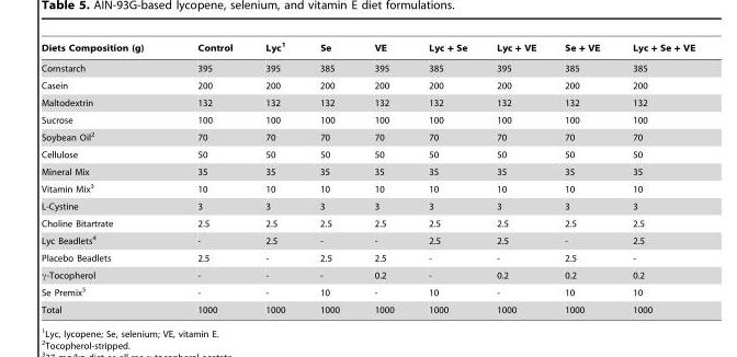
<table><thead><tr><td>Diets Composition (g)</td><td>Control</td><td>Lyc<sup>1</sup></td><td>Se</td><td>VE</td><td>Lyc + Se</td><td>Lyc + VE</td><td>Se + VE</td><td>Lyc + Se + VE</td></tr></thead><tbody><tr><td>Cornstarch</td><td>395</td><td>395</td><td>385</td><td>395</td><td>385</td><td>395</td><td>385</td><td>385</td></tr><tr><td>Casein</td><td>200</td><td>200</td><td>200</td><td>200</td><td>200</td><td>200</td><td>200</td><td>200</td></tr><tr><td>Maltodextrin</td><td>132</td><td>132</td><td>132</td><td>132</td><td>132</td><td>132</td><td>132</td><td>132</td></tr><tr><td>Sucrose</td><td>100</td><td>100</td><td>100</td><td>100</td><td>100</td><td>100</td><td>100</td><td>100</td></tr><tr><td>Soybean Oil<sup>2</sup></td><td>70</td><td>70</td><td>70</td><td>70</td><td>70</td><td>70</td><td>70</td><td>70</td></tr><tr><td>Cellulose</td><td>50</td><td>50</td><td>50</td><td>50</td><td>50</td><td>50</td><td>50</td><td>50</td></tr><tr><td>Mineral Mix</td><td>35</td><td>35</td><td>35</td><td>35</td><td>35</td><td>35</td><td>35</td><td>35</td></tr><tr><td>Vitamin Mix<sup>3</sup></td><td>10</td><td>10</td><td>10</td><td>10</td><td>10</td><td>10</td><td>10</td><td>10</td></tr><tr><td>L-Cystine</td><td>3</td><td>3</td><td>3</td><td>3</td><td>3</td><td>3</td><td>3</td><td>3</td></tr><tr><td>Choline Bitartrate</td><td>2.5</td><td>2.5</td><td>2.5</td><td>2.5</td><td>2.5</td><td>2.5</td><td>2.5</td><td>2.5</td></tr><tr><td>Lyc Beadlets<sup>4</sup></td><td>-</td><td>2.5</td><td>-</td><td>-</td><td>2.5</td><td>2.5</td><td>-</td><td>2.5</td></tr><tr><td>Placebo Beadlets</td><td>2.5</td><td>-</td><td>2.5</td><td>2.5</td><td>-</td><td>-</td><td>2.5</td><td>-</td></tr><tr><td>γ-Tocopherol</td><td>-</td><td>-</td><td>-</td><td>0.2</td><td>-</td><td>0.2</td><td>0.2</td><td>0.2</td></tr><tr><td>Se Premix<sup>5</sup></td><td>-</td><td>-</td><td>10</td><td>-</td><td>10</td><td>-</td><td>10</td><td>10</td></tr><tr><td>Total</td><td>1000</td><td>1000</td><td>1000</td><td>1000</td><td>1000</td><td>1000</td><td>1000</td><td>1000</td></tr></tbody></table>